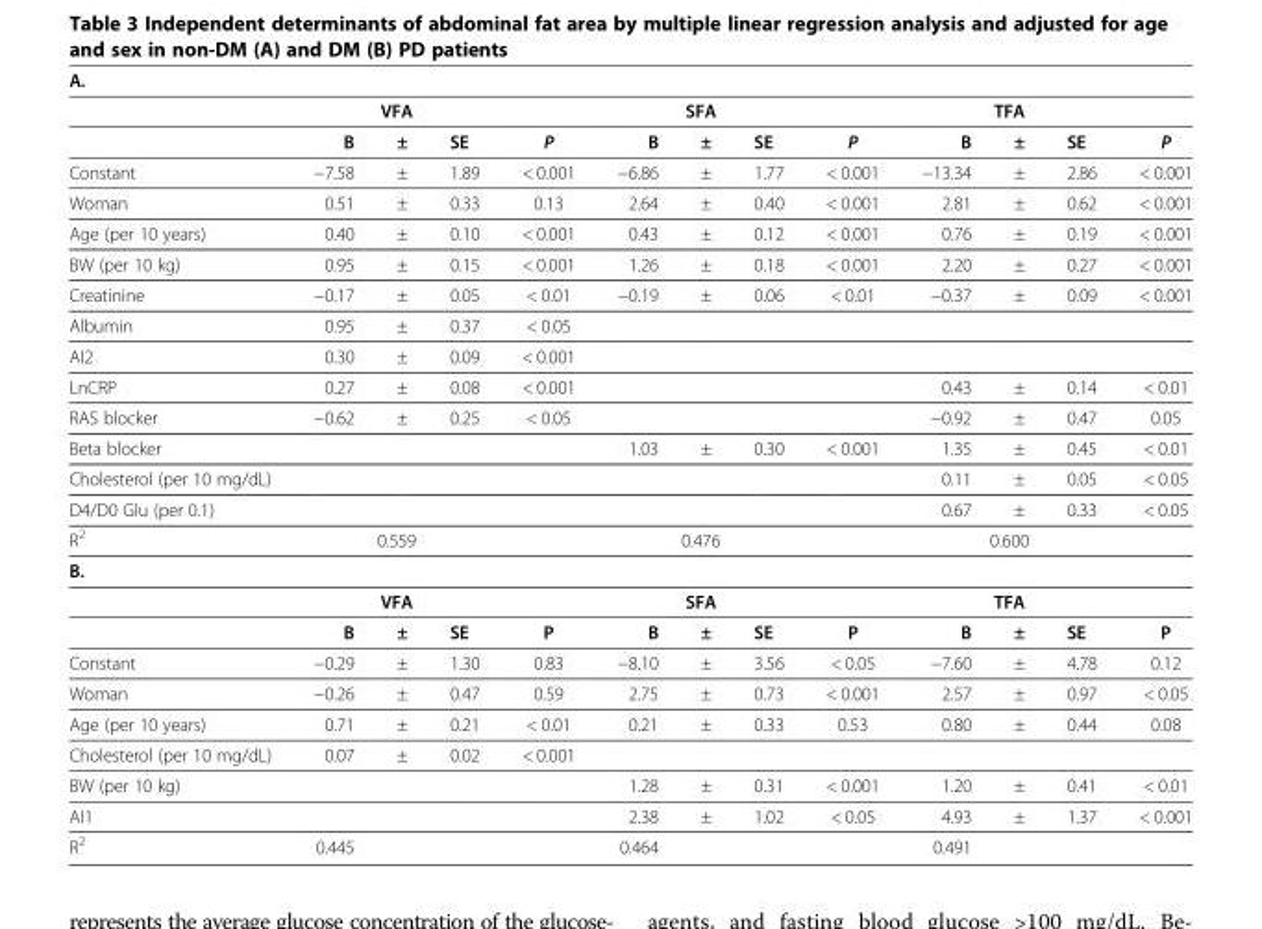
<table><thead><tr><td colspan="13">A.</td></tr><tr><td rowspan="2"></td><td colspan="3">VFA</td><td rowspan="2">P</td><td colspan="3">SFA</td><td rowspan="2">P</td><td colspan="3">TFA</td><td rowspan="2">P</td></tr><tr><td>B</td><td>±</td><td>SE</td><td>B</td><td>±</td><td>SE</td><td>B</td><td>±</td><td>SE</td></tr></thead><tbody><tr><td>Constant</td><td>−7.58</td><td>±</td><td>1.89</td><td>&lt; 0.001</td><td>−6.86</td><td>±</td><td>1.77</td><td>&lt; 0.001</td><td>−13.34</td><td>±</td><td>2.86</td><td>&lt; 0.001</td></tr><tr><td>Woman</td><td>0.51</td><td>±</td><td>0.33</td><td>0.13</td><td>2.64</td><td>±</td><td>0.40</td><td>&lt; 0.001</td><td>2.81</td><td>±</td><td>0.62</td><td>&lt; 0.001</td></tr><tr><td>Age (per 10 years)</td><td>0.40</td><td>±</td><td>0.10</td><td>&lt; 0.001</td><td>0.43</td><td>±</td><td>0.12</td><td>&lt; 0.001</td><td>0.76</td><td>±</td><td>0.19</td><td>&lt; 0.001</td></tr><tr><td>BW (per 10 kg)</td><td>0.95</td><td>±</td><td>0.15</td><td>&lt; 0.001</td><td>1.26</td><td>±</td><td>0.18</td><td>&lt; 0.001</td><td>2.20</td><td>±</td><td>0.27</td><td>&lt; 0.001</td></tr><tr><td>Creatinine</td><td>−0.17</td><td>±</td><td>0.05</td><td>&lt; 0.01</td><td>−0.19</td><td>±</td><td>0.06</td><td>&lt; 0.01</td><td>−0.37</td><td>±</td><td>0.09</td><td>&lt; 0.001</td></tr><tr><td>Albumin</td><td>0.95</td><td>±</td><td>0.37</td><td>&lt; 0.05</td><td></td><td></td><td></td><td></td><td></td><td></td><td></td><td></td></tr><tr><td>AI2</td><td>0.30</td><td>±</td><td>0.09</td><td>&lt; 0.001</td><td></td><td></td><td></td><td></td><td></td><td></td><td></td><td></td></tr><tr><td>LnCRP</td><td>0.27</td><td>±</td><td>0.08</td><td>&lt; 0.001</td><td></td><td></td><td></td><td></td><td>0.43</td><td>±</td><td>0.14</td><td>&lt; 0.01</td></tr><tr><td>RAS blocker</td><td>−0.62</td><td>±</td><td>0.25</td><td>&lt; 0.05</td><td></td><td></td><td></td><td></td><td>−0.92</td><td>±</td><td>0.47</td><td>0.05</td></tr><tr><td>Beta blocker</td><td></td><td></td><td></td><td></td><td>1.03</td><td>±</td><td>0.30</td><td>&lt; 0.001</td><td>1.35</td><td>±</td><td>0.45</td><td>&lt; 0.01</td></tr><tr><td>Cholesterol (per 10 mg/dL)</td><td></td><td></td><td></td><td></td><td></td><td></td><td></td><td></td><td>0.11</td><td>±</td><td>0.05</td><td>&lt; 0.05</td></tr><tr><td>D4/D0 Glu (per 0.1)</td><td></td><td></td><td></td><td></td><td></td><td></td><td></td><td></td><td>0.67</td><td>±</td><td>0.33</td><td>&lt; 0.05</td></tr><tr><td>R<sup>2</sup></td><td colspan="3">0.559</td><td></td><td colspan="3">0.476</td><td></td><td colspan="3">0.600</td><td></td></tr><tr><td colspan="13">B.</td></tr><tr><td></td><td colspan="3">VFA</td><td></td><td colspan="3">SFA</td><td></td><td colspan="3">TFA</td><td></td></tr><tr><td></td><td>B</td><td>±</td><td>SE</td><td>P</td><td>B</td><td>±</td><td>SE</td><td>P</td><td>B</td><td>±</td><td>SE</td><td>P</td></tr><tr><td>Constant</td><td>−0.29</td><td>±</td><td>1.30</td><td>0.83</td><td>−8.10</td><td>±</td><td>3.56</td><td>&lt; 0.05</td><td>−7.60</td><td>±</td><td>4.78</td><td>0.12</td></tr><tr><td>Woman</td><td>−0.26</td><td>±</td><td>0.47</td><td>0.59</td><td>2.75</td><td>±</td><td>0.73</td><td>&lt; 0.001</td><td>2.57</td><td>±</td><td>0.97</td><td>&lt; 0.05</td></tr><tr><td>Age (per 10 years)</td><td>0.71</td><td>±</td><td>0.21</td><td>&lt; 0.01</td><td>0.21</td><td>±</td><td>0.33</td><td>0.53</td><td>0.80</td><td>±</td><td>0.44</td><td>0.08</td></tr><tr><td>Cholesterol (per 10 mg/dL)</td><td>0.07</td><td>±</td><td>0.02</td><td>&lt; 0.001</td><td></td><td></td><td></td><td></td><td></td><td></td><td></td><td></td></tr><tr><td>BW (per 10 kg)</td><td></td><td></td><td></td><td></td><td>1.28</td><td>±</td><td>0.31</td><td>&lt; 0.001</td><td>1.20</td><td>±</td><td>0.41</td><td>&lt; 0.01</td></tr><tr><td>AI1</td><td></td><td></td><td></td><td></td><td>2.38</td><td>±</td><td>1.02</td><td>&lt; 0.05</td><td>4.93</td><td>±</td><td>1.37</td><td>&lt; 0.001</td></tr><tr><td>R<sup>2</sup></td><td>0.445</td><td></td><td></td><td></td><td>0.464</td><td></td><td></td><td></td><td>0.491</td><td></td><td></td><td></td></tr></tbody></table>